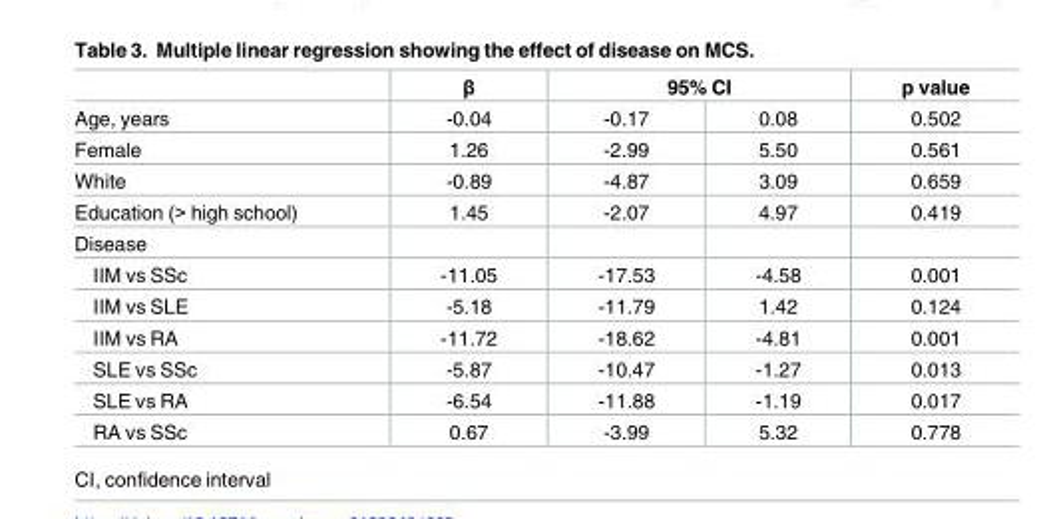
<table><thead><tr><td rowspan="2">Age, years</td><td rowspan="2">β -0.04</td><td colspan="2">95% CI</td><td rowspan="2">p value 0.502</td></tr><tr><td>-0.17</td><td>0.08</td></tr></thead><tbody><tr><td>Female</td><td>1.26</td><td>-2.99</td><td>5.50</td><td>0.561</td></tr><tr><td>White</td><td>-0.89</td><td>-4.87</td><td>3.09</td><td>0.659</td></tr><tr><td>Education (&gt; high school)</td><td>1.45</td><td>-2.07</td><td>4.97</td><td>0.419</td></tr><tr><td colspan="5">Disease</td></tr><tr><td>IIM vs SSc</td><td>-11.05</td><td>-17.53</td><td>-4.58</td><td>0.001</td></tr><tr><td>IIM vs SLE</td><td>-5.18</td><td>-11.79</td><td>1.42</td><td>0.124</td></tr><tr><td>IIM vs RA</td><td>-11.72</td><td>-18.62</td><td>-4.81</td><td>0.001</td></tr><tr><td>SLE vs SSc</td><td>-5.87</td><td>-10.47</td><td>-1.27</td><td>0.013</td></tr><tr><td>SLE vs RA</td><td>-6.54</td><td>-11.88</td><td>-1.19</td><td>0.017</td></tr><tr><td>RA vs SSc</td><td>0.67</td><td>-3.99</td><td>5.32</td><td>0.778</td></tr></tbody></table>